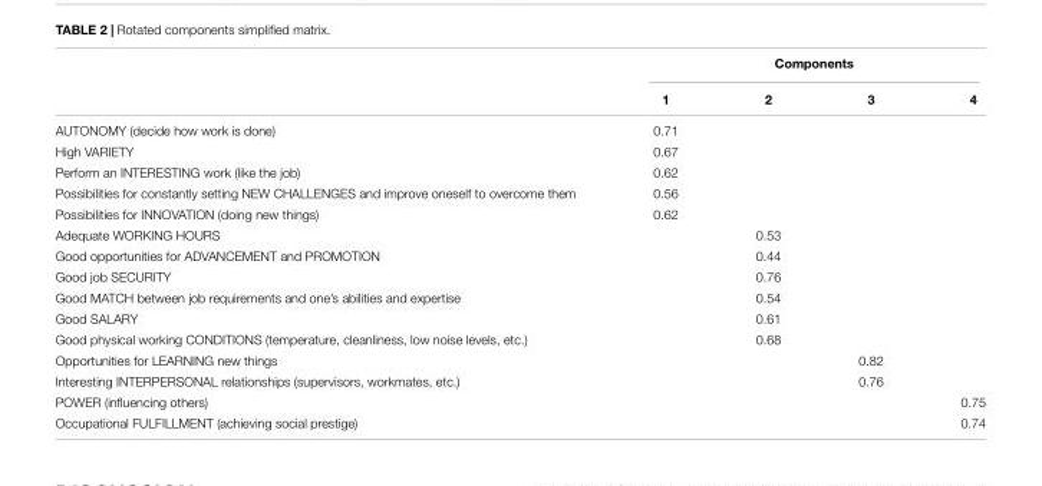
<table><thead><tr><td rowspan="2"></td><td colspan="4">Components</td></tr><tr><td>1</td><td>2</td><td>3</td><td>4</td></tr></thead><tbody><tr><td>AUTONOMY (decide how work is done)</td><td>0.71</td><td></td><td></td><td></td></tr><tr><td>High VARIETY</td><td>0.67</td><td></td><td></td><td></td></tr><tr><td>Perform an INTERESTING work (like the job)</td><td>0.62</td><td></td><td></td><td></td></tr><tr><td>Possibilities for constantly setting NEW CHALLENGES and improve oneself to overcome them</td><td>0.56</td><td></td><td></td><td></td></tr><tr><td>Possibilities for INNOVATION (doing new things)</td><td>0.62</td><td></td><td></td><td></td></tr><tr><td>Adequate WORKING HOURS</td><td></td><td>0.53</td><td></td><td></td></tr><tr><td>Good opportunities for ADVANCEMENT and PROMOTION</td><td></td><td>0.44</td><td></td><td></td></tr><tr><td>Good job SECURITY</td><td></td><td>0.76</td><td></td><td></td></tr><tr><td>Good MATCH between job requirements and one’s abilities and expertise</td><td></td><td>0.54</td><td></td><td></td></tr><tr><td>Good SALARY</td><td></td><td>0.61</td><td></td><td></td></tr><tr><td>Good physical working CONDITIONS (temperature, cleanliness, low noise levels, etc.)</td><td></td><td>0.68</td><td></td><td></td></tr><tr><td>Opportunities for LEARNING new things</td><td></td><td></td><td>0.82</td><td></td></tr><tr><td>Interesting INTERPERSONAL relationships (supervisors, workmates, etc.)</td><td></td><td></td><td>0.76</td><td></td></tr><tr><td>POWER (influencing others)</td><td></td><td></td><td></td><td>0.75</td></tr><tr><td>Occupational FULFILLMENT (achieving social prestige)</td><td></td><td></td><td></td><td>0.74</td></tr></tbody></table>